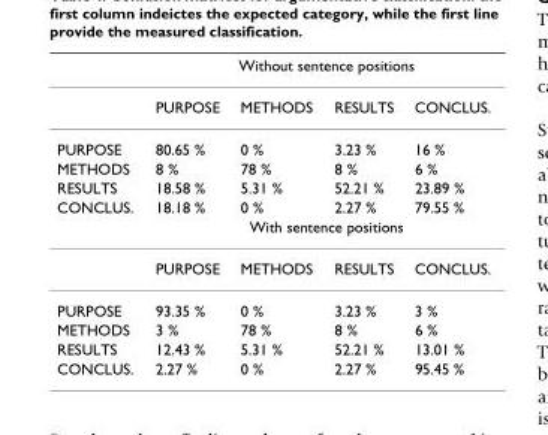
<table><thead><tr><td rowspan="2"></td><td colspan="4">Without sentence positions</td></tr><tr><td>PURPOSE</td><td>METHODS</td><td>RESULTS</td><td>CONCLUS.</td></tr></thead><tbody><tr><td>PURPOSE</td><td>80.65 %</td><td>0 %</td><td>3.23 %</td><td>16 %</td></tr><tr><td>METHODS</td><td>8 %</td><td>78 %</td><td>8 %</td><td>6 %</td></tr><tr><td>RESULTS</td><td>18.58 %</td><td>5.31 %</td><td>52.21 %</td><td>23.89 %</td></tr><tr><td rowspan="3">CONCLUS.</td><td>18.18 %</td><td>0 %</td><td>2.27 %</td><td>79.55 %</td></tr><tr><td colspan="4">With sentence positions</td></tr><tr><td>PURPOSE</td><td>METHODS</td><td>RESULTS</td><td>CONCLUS.</td></tr><tr><td>PURPOSE</td><td>93.35 %</td><td>0 %</td><td>3.23 %</td><td>3 %</td></tr><tr><td>METHODS</td><td>3 %</td><td>78 %</td><td>8 %</td><td>6 %</td></tr><tr><td>RESULTS</td><td>12.43 %</td><td>5.31 %</td><td>52.21 %</td><td>13.01 %</td></tr><tr><td>CONCLUS.</td><td>2.27 %</td><td>0 %</td><td>2.27 %</td><td>95.45 %</td></tr></tbody></table>